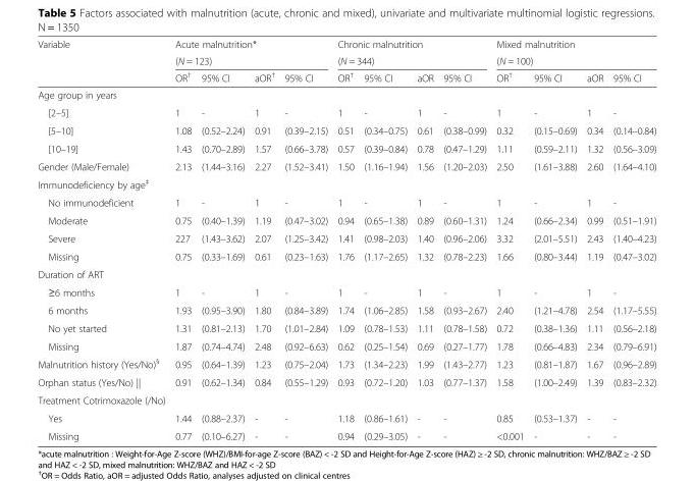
<table><thead><tr><td rowspan="3">Variable</td><td rowspan="2" colspan="4">Acute malnutrition* (N = 123)</td><td rowspan="2" colspan="4">Chronic malnutrition (N = 344)</td><td rowspan="2" colspan="4">Mixed malnutrition (N = 100)</td></tr><tr></tr><tr><td>OR<sup>†</sup></td><td>95% CI</td><td>aOR<sup>†</sup></td><td>95% CI</td><td>OR<sup>†</sup></td><td>95% CI</td><td>aOR</td><td>95% CI</td><td>OR<sup>†</sup></td><td>95% CI</td><td>aOR</td><td>95% CI</td></tr></thead><tbody><tr><td colspan="13">Age group in years</td></tr><tr><td>[2–5]</td><td>1</td><td>-</td><td>1</td><td>-</td><td>1</td><td>-</td><td>1</td><td>-</td><td>1</td><td>-</td><td>1</td><td>-</td></tr><tr><td>[5–10]</td><td>1.08</td><td>(0.52–2.24)</td><td>0.91</td><td>(0.39–2.15)</td><td>0.51</td><td>(0.34–0.75)</td><td>0.61</td><td>(0.38–0.99)</td><td>0.32</td><td>(0.15–0.69)</td><td>0.34</td><td>(0.14–0.84)</td></tr><tr><td>[10–19]</td><td>1.43</td><td>(0.70–2.89)</td><td>1.57</td><td>(0.66–3.78)</td><td>0.57</td><td>(0.39–0.84)</td><td>0.78</td><td>(0.47–1.29)</td><td>1.11</td><td>(0.59–2.11)</td><td>1.32</td><td>(0.56–3.09)</td></tr><tr><td>Gender (Male/Female)</td><td>2.13</td><td>(1.44–3.16)</td><td>2.27</td><td>(1.52–3.41)</td><td>1.50</td><td>(1.16–1.94)</td><td>1.56</td><td>(1.20–2.03)</td><td>2.50</td><td>(1.61–3.88)</td><td>2.60</td><td>(1.64–4.10)</td></tr><tr><td colspan="13">Immunodeficiency by age<sup>‡</sup></td></tr><tr><td>No immunodeficient</td><td>1</td><td>-</td><td>1</td><td>-</td><td>1</td><td>-</td><td>1</td><td>-</td><td>1</td><td>-</td><td>1</td><td>-</td></tr><tr><td>Moderate</td><td>0.75</td><td>(0.40–1.39)</td><td>1.19</td><td>(0.47–3.02)</td><td>0.94</td><td>(0.65–1.38)</td><td>0.89</td><td>(0.60–1.31)</td><td>1.24</td><td>(0.66–2.34)</td><td>0.99</td><td>(0.51–1.91)</td></tr><tr><td>Severe</td><td>227</td><td>(1.43–3.62)</td><td>2.07</td><td>(1.25–3.42)</td><td>1.41</td><td>(0.98–2.03)</td><td>1.40</td><td>(0.96–2.06)</td><td>3.32</td><td>(2.01–5.51)</td><td>2.43</td><td>(1.40–4.23)</td></tr><tr><td>Missing</td><td>0.75</td><td>(0.33–1.69)</td><td>0.61</td><td>(0.23–1.63)</td><td>1.76</td><td>(1.17–2.65)</td><td>1.32</td><td>(0.78–2.23)</td><td>1.66</td><td>(0.80–3.44)</td><td>1.19</td><td>(0.47–3.02)</td></tr><tr><td colspan="13">Duration of ART</td></tr><tr><td>≥6 months</td><td>1</td><td>-</td><td>1</td><td>-</td><td>1</td><td>-</td><td>1</td><td>-</td><td>1</td><td>-</td><td>1</td><td>-</td></tr><tr><td>6 months</td><td>1.93</td><td>(0.95–3.90)</td><td>1.80</td><td>(0.84–3.89)</td><td>1.74</td><td>(1.06–2.85)</td><td>1.58</td><td>(0.93–2.67)</td><td>2.40</td><td>(1.21–4.78)</td><td>2.54</td><td>(1.17–5.55)</td></tr><tr><td>No yet started</td><td>1.31</td><td>(0.81–2.13)</td><td>1.70</td><td>(1.01–2.84)</td><td>1.09</td><td>(0.78–1.53)</td><td>1.11</td><td>(0.78–1.58)</td><td>0.72</td><td>(0.38–1.36)</td><td>1.11</td><td>(0.56–2.18)</td></tr><tr><td>Missing</td><td>1.87</td><td>(0.74–4.74)</td><td>2.48</td><td>(0.92–6.63)</td><td>0.62</td><td>(0.25–1.54)</td><td>0.69</td><td>(0.27–1.77)</td><td>1.78</td><td>(0.66–4.83)</td><td>2.34</td><td>(0.79–6.91)</td></tr><tr><td>Malnutrition history (Yes/No)<sup>§</sup></td><td>0.95</td><td>(0.64–1.39)</td><td>1.23</td><td>(0.75–2.04)</td><td>1.73</td><td>(1.34–2.23)</td><td>1.99</td><td>(1.43–2.77)</td><td>1.23</td><td>(0.81–1.87)</td><td>1.67</td><td>(0.96–2.89)</td></tr><tr><td>Orphan status (Yes/No) ||</td><td>0.91</td><td>(0.62–1.34)</td><td>0.84</td><td>(0.55–1.29)</td><td>0.93</td><td>(0.72–1.20)</td><td>1.03</td><td>(0.77–1.37)</td><td>1.58</td><td>(1.00–2.49)</td><td>1.39</td><td>(0.83–2.32)</td></tr><tr><td colspan="13">Treatment Cotrimoxazole (/No)</td></tr><tr><td>Yes</td><td>1.44</td><td>(0.88–2.37)</td><td>-</td><td>-</td><td>1.18</td><td>(0.86–1.61)</td><td>-</td><td>-</td><td>0.85</td><td>(0.53–1.37)</td><td>-</td><td>-</td></tr><tr><td>Missing</td><td>0.77</td><td>(0.10–6.27)</td><td>-</td><td>-</td><td>0.94</td><td>(0.29–3.05)</td><td>-</td><td>-</td><td>&lt;0.001</td><td>-</td><td>-</td><td>-</td></tr></tbody></table>